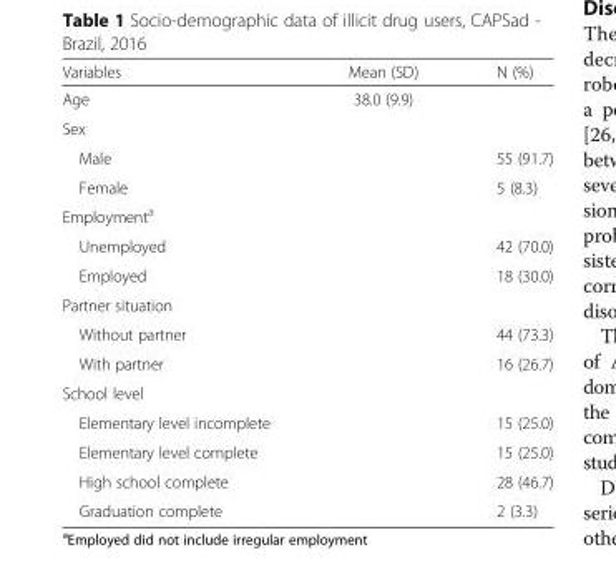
<table><thead><tr><td>Variables</td><td>Mean (SD)</td><td>N (%)</td></tr></thead><tbody><tr><td>Age</td><td>38.0 (9.9)</td><td></td></tr><tr><td colspan="3">Sex</td></tr><tr><td>Male</td><td></td><td>55 (91.7)</td></tr><tr><td>Female</td><td></td><td>5 (8.3)</td></tr><tr><td colspan="3">Employment<sup>a</sup></td></tr><tr><td>Unemployed</td><td></td><td>42 (70.0)</td></tr><tr><td>Employed</td><td></td><td>18 (30.0)</td></tr><tr><td colspan="3">Partner situation</td></tr><tr><td>Without partner</td><td></td><td>44 (73.3)</td></tr><tr><td>With partner</td><td></td><td>16 (26.7)</td></tr><tr><td colspan="3">School level</td></tr><tr><td>Elementary level incomplete</td><td></td><td>15 (25.0)</td></tr><tr><td>Elementary level complete</td><td></td><td>15 (25.0)</td></tr><tr><td>High school complete</td><td></td><td>28 (46.7)</td></tr><tr><td>Graduation complete</td><td></td><td>2 (3.3)</td></tr></tbody></table>